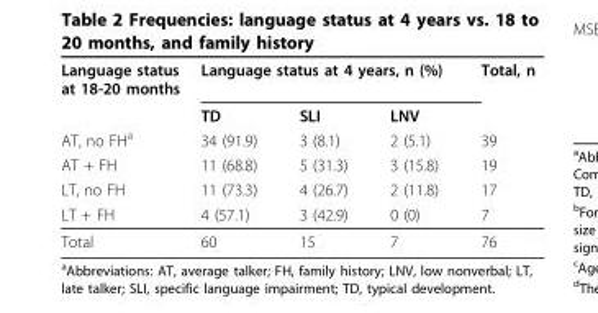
<table><thead><tr><td rowspan="6">Language status at 18-20 months AT, no FHa AT + FH LT, no FH LT + FH</td><td colspan="3">Language status at 4 years, n (%)</td><td rowspan="6">Total, n 39 19 17 7</td></tr><tr><td rowspan="5">TD 34 (91.9) 11 (68.8) 11 (73.3) 4 (57.1)</td><td rowspan="5">SLI 3 (8.1) 5 (31.3) 4 (26.7) 3 (42.9)</td><td rowspan="5">LNV 2 (5.1) 3 (15.8) 2 (11.8) 0 (0)</td></tr><tr></tr><tr></tr><tr></tr><tr></tr></thead><tbody><tr><td>Total</td><td>60</td><td>15</td><td>7</td><td>76</td></tr></tbody></table>